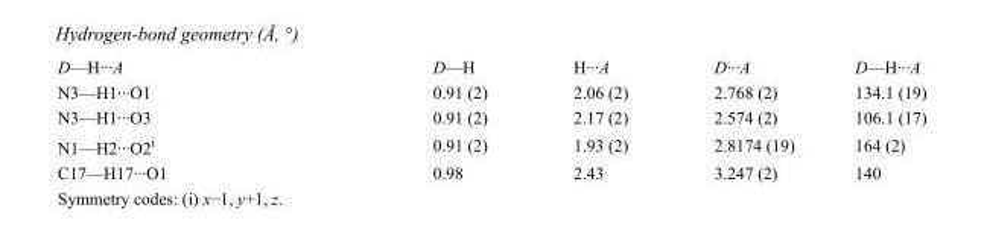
<table><tbody><tr><td>D—H···A</td><td>D—H</td><td>H···A</td><td>D···A</td><td>D—H···A</td></tr><tr><td>N3—H1···O1</td><td>0.91 (2)</td><td>2.06 (2)</td><td>2.768 (2)</td><td>134.1 (19)</td></tr><tr><td>N3—H1···O3</td><td>0.91 (2)</td><td>2.17 (2)</td><td>2.574 (2)</td><td>106.1 (17)</td></tr><tr><td>N1—H2···O2<sup>i</sup></td><td>0.91 (2)</td><td>1.93 (2)</td><td>2.8174 (19)</td><td>164 (2)</td></tr><tr><td>C17—H17···O1</td><td>0.98</td><td>2.43</td><td>3.247 (2)</td><td>140</td></tr></tbody></table>